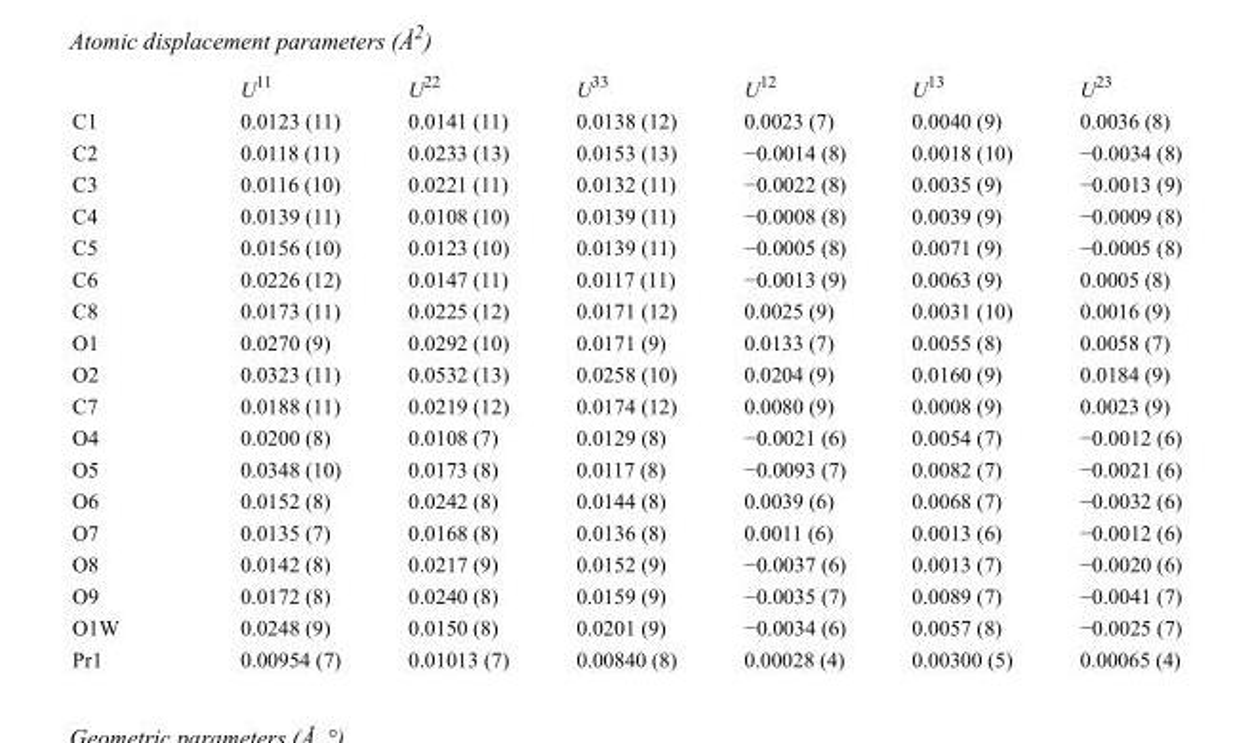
<table><thead><tr><td></td><td>U<sup>11</sup></td><td>U<sup>22</sup></td><td>U<sup>33</sup></td><td>U<sup>12</sup></td><td>U<sup>13</sup></td><td>U<sup>23</sup></td></tr></thead><tbody><tr><td>C1</td><td>0.0123 (11)</td><td>0.0141 (11)</td><td>0.0138 (12)</td><td>0.0023 (7)</td><td>0.0040 (9)</td><td>0.0036 (8)</td></tr><tr><td>C2</td><td>0.0118 (11)</td><td>0.0233 (13)</td><td>0.0153 (13)</td><td>−0.0014 (8)</td><td>0.0018 (10)</td><td>−0.0034 (8)</td></tr><tr><td>C3</td><td>0.0116 (10)</td><td>0.0221 (11)</td><td>0.0132 (11)</td><td>−0.0022 (8)</td><td>0.0035 (9)</td><td>−0.0013 (9)</td></tr><tr><td>C4</td><td>0.0139 (11)</td><td>0.0108 (10)</td><td>0.0139 (11)</td><td>−0.0008 (8)</td><td>0.0039 (9)</td><td>−0.0009 (8)</td></tr><tr><td>C5</td><td>0.0156 (10)</td><td>0.0123 (10)</td><td>0.0139 (11)</td><td>−0.0005 (8)</td><td>0.0071 (9)</td><td>−0.0005 (8)</td></tr><tr><td>C6</td><td>0.0226 (12)</td><td>0.0147 (11)</td><td>0.0117 (11)</td><td>−0.0013 (9)</td><td>0.0063 (9)</td><td>0.0005 (8)</td></tr><tr><td>C8</td><td>0.0173 (11)</td><td>0.0225 (12)</td><td>0.0171 (12)</td><td>0.0025 (9)</td><td>0.0031 (10)</td><td>0.0016 (9)</td></tr><tr><td>O1</td><td>0.0270 (9)</td><td>0.0292 (10)</td><td>0.0171 (9)</td><td>0.0133 (7)</td><td>0.0055 (8)</td><td>0.0058 (7)</td></tr><tr><td>O2</td><td>0.0323 (11)</td><td>0.0532 (13)</td><td>0.0258 (10)</td><td>0.0204 (9)</td><td>0.0160 (9)</td><td>0.0184 (9)</td></tr><tr><td>C7</td><td>0.0188 (11)</td><td>0.0219 (12)</td><td>0.0174 (12)</td><td>0.0080 (9)</td><td>0.0008 (9)</td><td>0.0023 (9)</td></tr><tr><td>O4</td><td>0.0200 (8)</td><td>0.0108 (7)</td><td>0.0129 (8)</td><td>−0.0021 (6)</td><td>0.0054 (7)</td><td>−0.0012 (6)</td></tr><tr><td>O5</td><td>0.0348 (10)</td><td>0.0173 (8)</td><td>0.0117 (8)</td><td>−0.0093 (7)</td><td>0.0082 (7)</td><td>−0.0021 (6)</td></tr><tr><td>O6</td><td>0.0152 (8)</td><td>0.0242 (8)</td><td>0.0144 (8)</td><td>0.0039 (6)</td><td>0.0068 (7)</td><td>−0.0032 (6)</td></tr><tr><td>O7</td><td>0.0135 (7)</td><td>0.0168 (8)</td><td>0.0136 (8)</td><td>0.0011 (6)</td><td>0.0013 (6)</td><td>−0.0012 (6)</td></tr><tr><td>O8</td><td>0.0142 (8)</td><td>0.0217 (9)</td><td>0.0152 (9)</td><td>−0.0037 (6)</td><td>0.0013 (7)</td><td>−0.0020 (6)</td></tr><tr><td>O9</td><td>0.0172 (8)</td><td>0.0240 (8)</td><td>0.0159 (9)</td><td>−0.0035 (7)</td><td>0.0089 (7)</td><td>−0.0041 (7)</td></tr><tr><td>O1W</td><td>0.0248 (9)</td><td>0.0150 (8)</td><td>0.0201 (9)</td><td>−0.0034 (6)</td><td>0.0057 (8)</td><td>−0.0025 (7)</td></tr><tr><td>Pr1</td><td>0.00954 (7)</td><td>0.01013 (7)</td><td>0.00840 (8)</td><td>0.00028 (4)</td><td>0.00300 (5)</td><td>0.00065 (4)</td></tr></tbody></table>